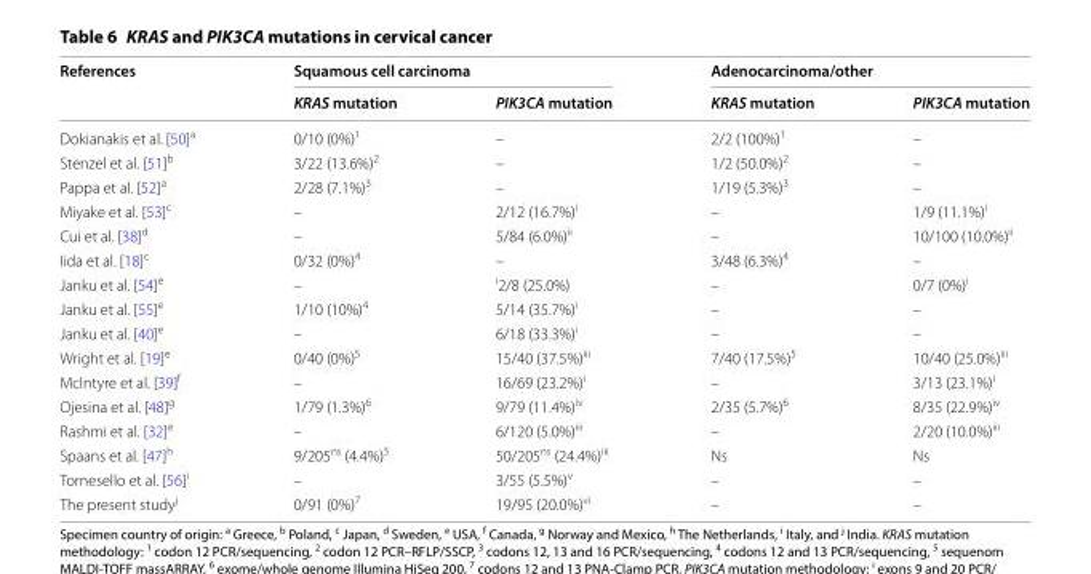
<table><thead><tr><td rowspan="2">References</td><td colspan="2">Squamous cell carcinoma</td><td colspan="2">Adenocarcinoma/other</td></tr><tr><td>KRAS mutation</td><td>PIK3CA mutation</td><td>KRAS mutation</td><td>PIK3CA mutation</td></tr></thead><tbody><tr><td>Dokianakis et al. [50]<sup>a</sup></td><td>0/10 (0%)<sup>1</sup></td><td>–</td><td>2/2 (100%)<sup>1</sup></td><td>–</td></tr><tr><td>Stenzel et al. [51]<sup>b</sup></td><td>3/22 (13.6%)<sup>2</sup></td><td>–</td><td>1/2 (50.0%)<sup>2</sup></td><td>–</td></tr><tr><td>Pappa et al. [52]<sup>a</sup></td><td>2/28 (7.1%)<sup>3</sup></td><td>–</td><td>1/19 (5.3%)<sup>3</sup></td><td>–</td></tr><tr><td>Miyake et al. [53]<sup>c</sup></td><td>–</td><td>2/12 (16.7%)<sup>i</sup></td><td>–</td><td>1/9 (11.1%)<sup>i</sup></td></tr><tr><td>Cui et al. [38]<sup>d</sup></td><td>–</td><td>5/84 (6.0%)<sup>ii</sup></td><td>–</td><td>10/100 (10.0%)<sup>ii</sup></td></tr><tr><td>Iida et al. [18]<sup>c</sup></td><td>0/32 (0%)<sup>4</sup></td><td>–</td><td>3/48 (6.3%)<sup>4</sup></td><td>–</td></tr><tr><td>Janku et al. [54]<sup>e</sup></td><td>–</td><td><sup>i</sup>2/8 (25.0%)</td><td>–</td><td>0/7 (0%)<sup>i</sup></td></tr><tr><td>Janku et al. [55]<sup>e</sup></td><td>1/10 (10%)<sup>4</sup></td><td>5/14 (35.7%)<sup>i</sup></td><td>–</td><td>–</td></tr><tr><td>Janku et al. [40]<sup>e</sup></td><td>–</td><td>6/18 (33.3%)<sup>i</sup></td><td>–</td><td>–</td></tr><tr><td>Wright et al. [19]<sup>e</sup></td><td>0/40 (0%)<sup>5</sup></td><td>15/40 (37.5%)<sup>iii</sup></td><td>7/40 (17.5%)<sup>5</sup></td><td>10/40 (25.0%)<sup>iii</sup></td></tr><tr><td>McIntyre et al. [39]<sup>f</sup></td><td>–</td><td>16/69 (23.2%)<sup>i</sup></td><td>–</td><td>3/13 (23.1%)<sup>i</sup></td></tr><tr><td>Ojesina et al. [48]<sup>g</sup></td><td>1/79 (1.3%)<sup>6</sup></td><td>9/79 (11.4%)<sup>iv</sup></td><td>2/35 (5.7%)<sup>6</sup></td><td>8/35 (22.9%)<sup>iv</sup></td></tr><tr><td>Rashmi et al. [32]<sup>e</sup></td><td>–</td><td>6/120 (5.0%)<sup>iii</sup></td><td>–</td><td>2/20 (10.0%)<sup>iii</sup></td></tr><tr><td>Spaans et al. [47]<sup>h</sup></td><td>9/205<sup>ns</sup> (4.4%)<sup>5</sup></td><td>50/205<sup>ns</sup> (24.4%)<sup>iii</sup></td><td>Ns</td><td>Ns</td></tr><tr><td>Tornesello et al. [56]<sup>i</sup></td><td>–</td><td>3/55 (5.5%)<sup>v</sup></td><td>–</td><td>–</td></tr><tr><td>The present study<sup>j</sup></td><td>0/91 (0%)<sup>7</sup></td><td>19/95 (20.0%)<sup>vi</sup></td><td>–</td><td>–</td></tr></tbody></table>